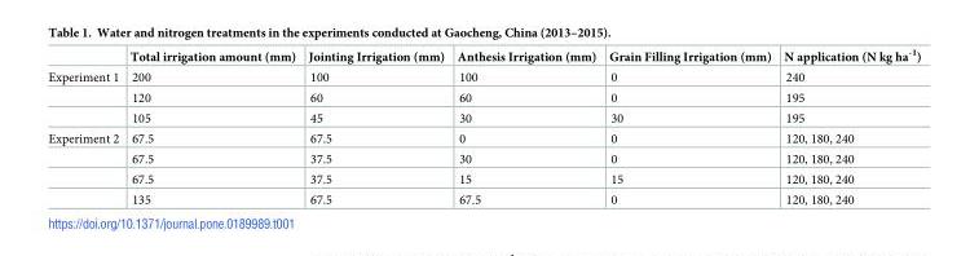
<table><thead><tr><td></td><td>Total irrigation amount (mm)</td><td>Jointing Irrigation (mm)</td><td>Anthesis Irrigation (mm)</td><td>Grain Filling Irrigation (mm)</td><td>N application (N kg ha<sup>-1</sup>)</td></tr></thead><tbody><tr><td rowspan="3">Experiment 1</td><td>200</td><td>100</td><td>100</td><td>0</td><td>240</td></tr><tr><td>120</td><td>60</td><td>60</td><td>0</td><td>195</td></tr><tr><td>105</td><td>45</td><td>30</td><td>30</td><td>195</td></tr><tr><td rowspan="4">Experiment 2</td><td>67.5</td><td>67.5</td><td>0</td><td>0</td><td>120, 180, 240</td></tr><tr><td>67.5</td><td>37.5</td><td>30</td><td>0</td><td>120, 180, 240</td></tr><tr><td>67.5</td><td>37.5</td><td>15</td><td>15</td><td>120, 180, 240</td></tr><tr><td>135</td><td>67.5</td><td>67.5</td><td>0</td><td>120, 180, 240</td></tr></tbody></table>